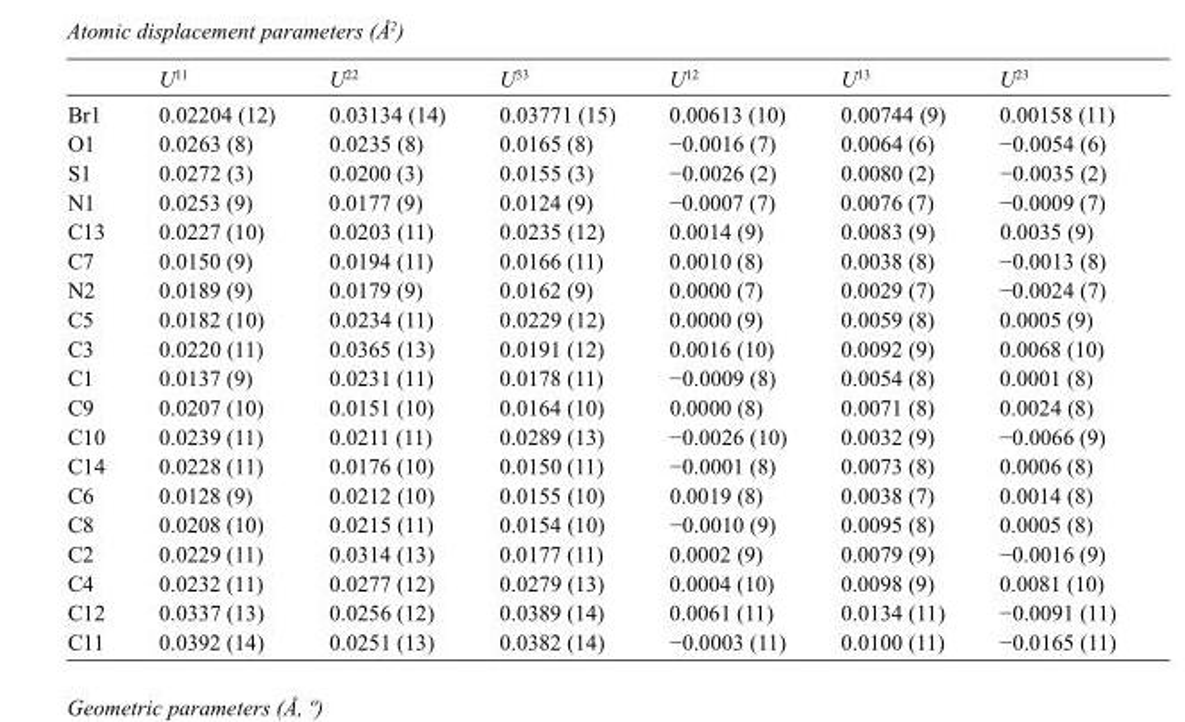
<table><thead><tr><td></td><td>U<sup>11</sup></td><td>U<sup>22</sup></td><td>U<sup>33</sup></td><td>U<sup>12</sup></td><td>U<sup>13</sup></td><td>U<sup>23</sup></td></tr></thead><tbody><tr><td>Br1</td><td>0.02204 (12)</td><td>0.03134 (14)</td><td>0.03771 (15)</td><td>0.00613 (10)</td><td>0.00744 (9)</td><td>0.00158 (11)</td></tr><tr><td>O1</td><td>0.0263 (8)</td><td>0.0235 (8)</td><td>0.0165 (8)</td><td>−0.0016 (7)</td><td>0.0064 (6)</td><td>−0.0054 (6)</td></tr><tr><td>S1</td><td>0.0272 (3)</td><td>0.0200 (3)</td><td>0.0155 (3)</td><td>−0.0026 (2)</td><td>0.0080 (2)</td><td>−0.0035 (2)</td></tr><tr><td>N1</td><td>0.0253 (9)</td><td>0.0177 (9)</td><td>0.0124 (9)</td><td>−0.0007 (7)</td><td>0.0076 (7)</td><td>−0.0009 (7)</td></tr><tr><td>C13</td><td>0.0227 (10)</td><td>0.0203 (11)</td><td>0.0235 (12)</td><td>0.0014 (9)</td><td>0.0083 (9)</td><td>0.0035 (9)</td></tr><tr><td>C7</td><td>0.0150 (9)</td><td>0.0194 (11)</td><td>0.0166 (11)</td><td>0.0010 (8)</td><td>0.0038 (8)</td><td>−0.0013 (8)</td></tr><tr><td>N2</td><td>0.0189 (9)</td><td>0.0179 (9)</td><td>0.0162 (9)</td><td>0.0000 (7)</td><td>0.0029 (7)</td><td>−0.0024 (7)</td></tr><tr><td>C5</td><td>0.0182 (10)</td><td>0.0234 (11)</td><td>0.0229 (12)</td><td>0.0000 (9)</td><td>0.0059 (8)</td><td>0.0005 (9)</td></tr><tr><td>C3</td><td>0.0220 (11)</td><td>0.0365 (13)</td><td>0.0191 (12)</td><td>0.0016 (10)</td><td>0.0092 (9)</td><td>0.0068 (10)</td></tr><tr><td>C1</td><td>0.0137 (9)</td><td>0.0231 (11)</td><td>0.0178 (11)</td><td>−0.0009 (8)</td><td>0.0054 (8)</td><td>0.0001 (8)</td></tr><tr><td>C9</td><td>0.0207 (10)</td><td>0.0151 (10)</td><td>0.0164 (10)</td><td>0.0000 (8)</td><td>0.0071 (8)</td><td>0.0024 (8)</td></tr><tr><td>C10</td><td>0.0239 (11)</td><td>0.0211 (11)</td><td>0.0289 (13)</td><td>−0.0026 (10)</td><td>0.0032 (9)</td><td>−0.0066 (9)</td></tr><tr><td>C14</td><td>0.0228 (11)</td><td>0.0176 (10)</td><td>0.0150 (11)</td><td>−0.0001 (8)</td><td>0.0073 (8)</td><td>0.0006 (8)</td></tr><tr><td>C6</td><td>0.0128 (9)</td><td>0.0212 (10)</td><td>0.0155 (10)</td><td>0.0019 (8)</td><td>0.0038 (7)</td><td>0.0014 (8)</td></tr><tr><td>C8</td><td>0.0208 (10)</td><td>0.0215 (11)</td><td>0.0154 (10)</td><td>−0.0010 (9)</td><td>0.0095 (8)</td><td>0.0005 (8)</td></tr><tr><td>C2</td><td>0.0229 (11)</td><td>0.0314 (13)</td><td>0.0177 (11)</td><td>0.0002 (9)</td><td>0.0079 (9)</td><td>−0.0016 (9)</td></tr><tr><td>C4</td><td>0.0232 (11)</td><td>0.0277 (12)</td><td>0.0279 (13)</td><td>0.0004 (10)</td><td>0.0098 (9)</td><td>0.0081 (10)</td></tr><tr><td>C12</td><td>0.0337 (13)</td><td>0.0256 (12)</td><td>0.0389 (14)</td><td>0.0061 (11)</td><td>0.0134 (11)</td><td>−0.0091 (11)</td></tr><tr><td>C11</td><td>0.0392 (14)</td><td>0.0251 (13)</td><td>0.0382 (14)</td><td>−0.0003 (11)</td><td>0.0100 (11)</td><td>−0.0165 (11)</td></tr></tbody></table>